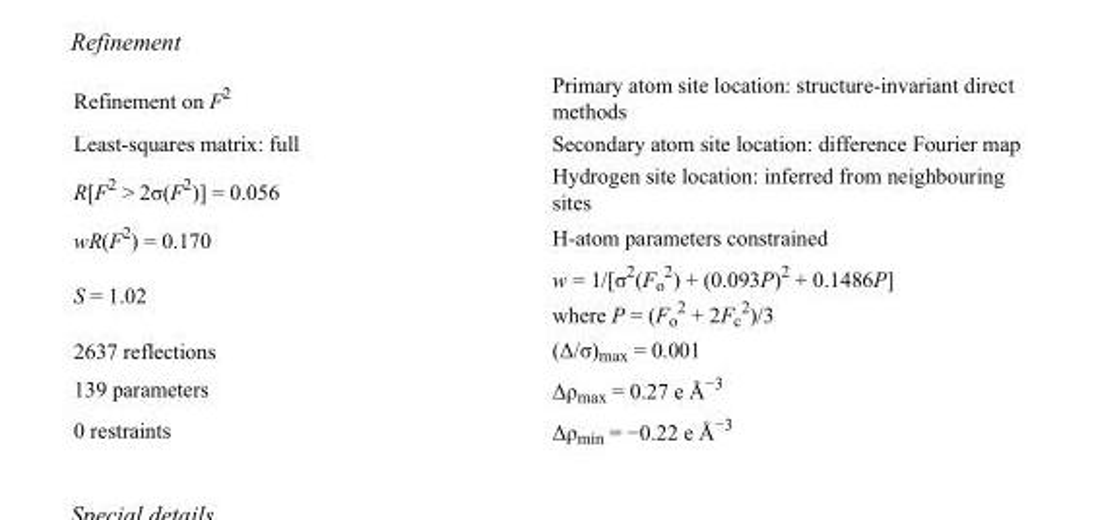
<table><tbody><tr><td>Refinement on F<sup>2</sup></td><td>Primary atom site location: structure-invariant direct methods</td></tr><tr><td>Least-squares matrix: full</td><td>Secondary atom site location: difference Fourier map</td></tr><tr><td>R[F<sup>2</sup> &gt; 2σ(F<sup>2</sup>)] = 0.056</td><td>Hydrogen site location: inferred from neighbouring sites</td></tr><tr><td>wR(F<sup>2</sup>) = 0.170</td><td>H-atom parameters constrained</td></tr><tr><td>S = 1.02</td><td>w = 1/[σ<sup>2</sup>(F<sub>o</sub> <sup>2</sup>) + (0.093P)<sup>2</sup> + 0.1486P] where P = (F<sub>o</sub> <sup>2</sup> + 2F<sub>c</sub> <sup>2</sup>)/3</td></tr><tr><td>2637 reflections</td><td>(Δ/σ)<sub>max</sub> = 0.001</td></tr><tr><td>139 parameters</td><td>Δρ<sub>max</sub> = 0.27 e Å<sup>−3</sup></td></tr><tr><td>0 restraints</td><td>Δρ<sub>min</sub> = −0.22 e Å<sup>−3</sup></td></tr></tbody></table>